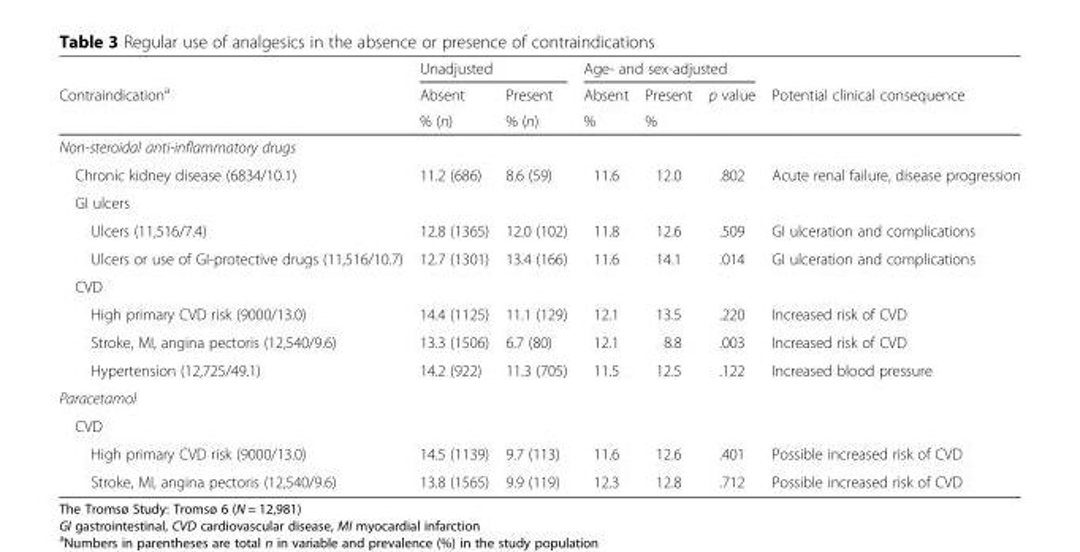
<table><thead><tr><td rowspan="3">Contraindication<sup>a</sup></td><td colspan="2">Unadjusted</td><td colspan="3">Age- and sex-adjusted</td><td rowspan="3">Potential clinical consequence</td></tr><tr><td rowspan="2">Absent % (n)</td><td rowspan="2">Present % (n)</td><td rowspan="2">Absent %</td><td rowspan="2">Present %</td><td rowspan="2">p value</td></tr><tr></tr></thead><tbody><tr><td colspan="7">Non-steroidal anti-inflammatory drugs</td></tr><tr><td>Chronic kidney disease (6834/10.1)</td><td>11.2 (686)</td><td>8.6 (59)</td><td>11.6</td><td>12.0</td><td>.802</td><td>Acute renal failure, disease progression</td></tr><tr><td colspan="7">GI ulcers</td></tr><tr><td>Ulcers (11,516/7.4)</td><td>12.8 (1365)</td><td>12.0 (102)</td><td>11.8</td><td>12.6</td><td>.509</td><td>GI ulceration and complications</td></tr><tr><td>Ulcers or use of GI-protective drugs (11,516/10.7)</td><td>12.7 (1301)</td><td>13.4 (166)</td><td>11.6</td><td>14.1</td><td>.014</td><td>GI ulceration and complications</td></tr><tr><td colspan="7">CVD</td></tr><tr><td>High primary CVD risk (9000/13.0)</td><td>14.4 (1125)</td><td>11.1 (129)</td><td>12.1</td><td>13.5</td><td>.220</td><td>Increased risk of CVD</td></tr><tr><td>Stroke, MI, angina pectoris (12,540/9.6)</td><td>13.3 (1506)</td><td>6.7 (80)</td><td>12.1</td><td>8.8</td><td>.003</td><td>Increased risk of CVD</td></tr><tr><td>Hypertension (12,725/49.1)</td><td>14.2 (922)</td><td>11.3 (705)</td><td>11.5</td><td>12.5</td><td>.122</td><td>Increased blood pressure</td></tr><tr><td colspan="7">Paracetamol</td></tr><tr><td colspan="7">CVD</td></tr><tr><td>High primary CVD risk (9000/13.0)</td><td>14.5 (1139)</td><td>9.7 (113)</td><td>11.6</td><td>12.6</td><td>.401</td><td>Possible increased risk of CVD</td></tr><tr><td>Stroke, MI, angina pectoris (12,540/9.6)</td><td>13.8 (1565)</td><td>9.9 (119)</td><td>12.3</td><td>12.8</td><td>.712</td><td>Possible increased risk of CVD</td></tr></tbody></table>